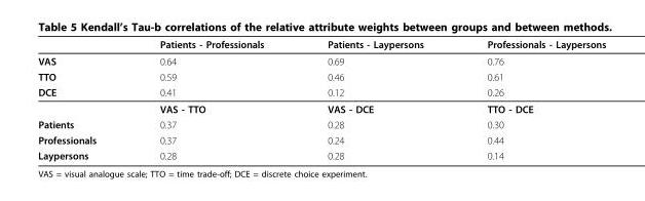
<table><thead><tr><td></td><td>Patients - Professionals</td><td>Patients - Laypersons</td><td>Professionals - Laypersons</td></tr></thead><tbody><tr><td>VAS</td><td>0.64</td><td>0.69</td><td>0.76</td></tr><tr><td>TTO</td><td>0.59</td><td>0.46</td><td>0.61</td></tr><tr><td rowspan="2">DCE</td><td>0.41</td><td>0.12</td><td>0.26</td></tr><tr><td>VAS - TTO</td><td>VAS - DCE</td><td>TTO - DCE</td></tr><tr><td>Patients</td><td>0.37</td><td>0.28</td><td>0.30</td></tr><tr><td>Professionals</td><td>0.37</td><td>0.24</td><td>0.44</td></tr><tr><td>Laypersons</td><td>0.28</td><td>0.28</td><td>0.14</td></tr></tbody></table>